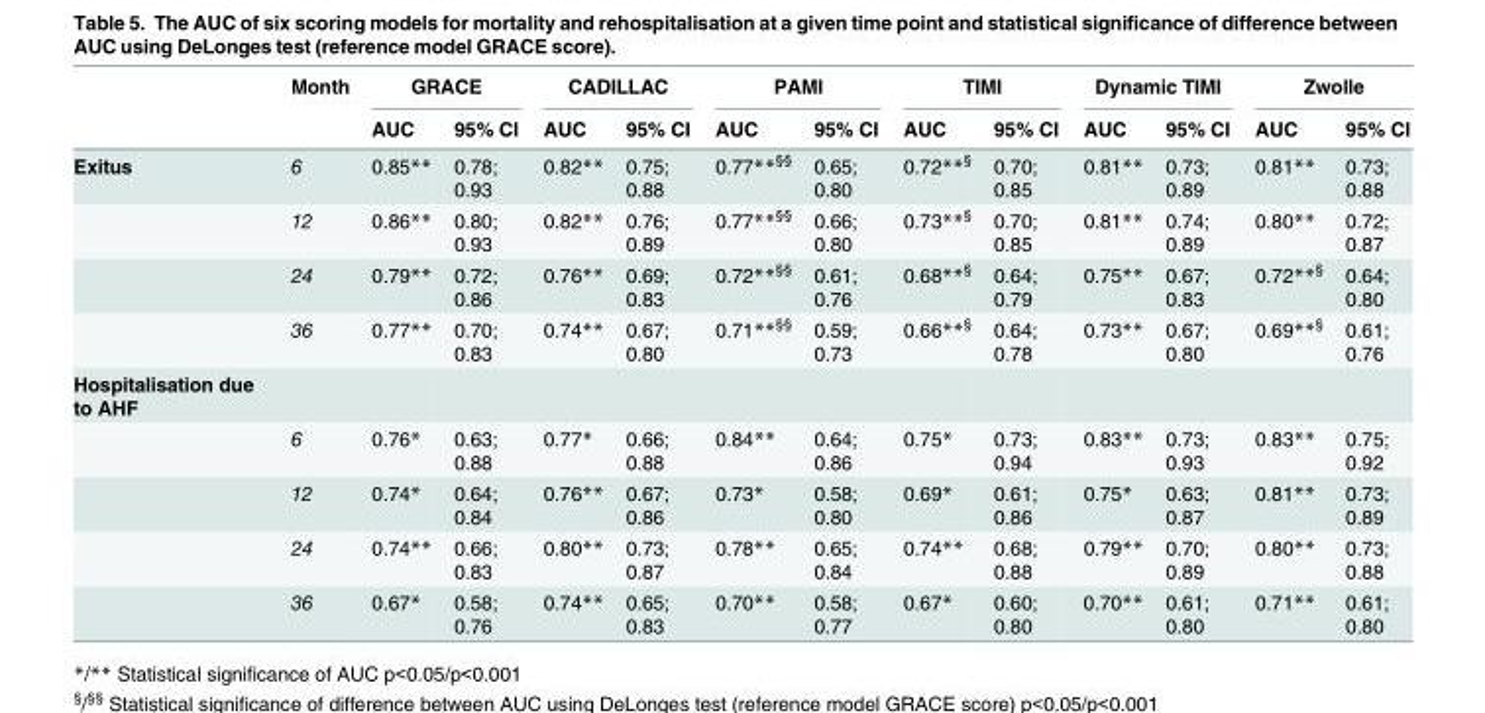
<table><thead><tr><td rowspan="2"></td><td rowspan="2">Month</td><td colspan="2">GRACE</td><td colspan="2">CADILLAC</td><td colspan="2">PAMI</td><td colspan="2">TIMI</td><td colspan="2">Dynamic TIMI</td><td colspan="2">Zwolle</td></tr><tr><td>AUC</td><td>95% CI</td><td>AUC</td><td>95% CI</td><td>AUC</td><td>95% CI</td><td>AUC</td><td>95% CI</td><td>AUC</td><td>95% CI</td><td>AUC</td><td>95% CI</td></tr></thead><tbody><tr><td rowspan="4">Exitus</td><td>6</td><td>0.85**</td><td>0.78; 0.93</td><td>0.82**</td><td>0.75; 0.88</td><td>0.77**<sup>§§</sup></td><td>0.65; 0.80</td><td>0.72**<sup>§</sup></td><td>0.70; 0.85</td><td>0.81**</td><td>0.73; 0.89</td><td>0.81**</td><td>0.73; 0.88</td></tr><tr><td>12</td><td>0.86**</td><td>0.80; 0.93</td><td>0.82**</td><td>0.76; 0.89</td><td>0.77**<sup>§§</sup></td><td>0.66; 0.80</td><td>0.73**<sup>§</sup></td><td>0.70; 0.85</td><td>0.81**</td><td>0.74; 0.89</td><td>0.80**</td><td>0.72; 0.87</td></tr><tr><td>24</td><td>0.79**</td><td>0.72; 0.86</td><td>0.76**</td><td>0.69; 0.83</td><td>0.72**<sup>§§</sup></td><td>0.61; 0.76</td><td>0.68**<sup>§</sup></td><td>0.64; 0.79</td><td>0.75**</td><td>0.67; 0.83</td><td>0.72**<sup>§</sup></td><td>0.64; 0.80</td></tr><tr><td>36</td><td>0.77**</td><td>0.70; 0.83</td><td>0.74**</td><td>0.67; 0.80</td><td>0.71**<sup>§§</sup></td><td>0.59; 0.73</td><td>0.66**<sup>§</sup></td><td>0.64; 0.78</td><td>0.73**</td><td>0.67; 0.80</td><td>0.69**<sup>§</sup></td><td>0.61; 0.76</td></tr><tr><td colspan="14">Hospitalisation due to AHF</td></tr><tr><td></td><td>6</td><td>0.76*</td><td>0.63; 0.88</td><td>0.77*</td><td>0.66; 0.88</td><td>0.84**</td><td>0.64; 0.86</td><td>0.75*</td><td>0.73; 0.94</td><td>0.83**</td><td>0.73; 0.93</td><td>0.83**</td><td>0.75; 0.92</td></tr><tr><td></td><td>12</td><td>0.74*</td><td>0.64; 0.84</td><td>0.76**</td><td>0.67; 0.86</td><td>0.73*</td><td>0.58; 0.80</td><td>0.69*</td><td>0.61; 0.86</td><td>0.75*</td><td>0.63; 0.87</td><td>0.81**</td><td>0.73; 0.89</td></tr><tr><td></td><td>24</td><td>0.74**</td><td>0.66; 0.83</td><td>0.80**</td><td>0.73; 0.87</td><td>0.78**</td><td>0.65; 0.84</td><td>0.74**</td><td>0.68; 0.88</td><td>0.79**</td><td>0.70; 0.89</td><td>0.80**</td><td>0.73; 0.88</td></tr><tr><td></td><td>36</td><td>0.67*</td><td>0.58; 0.76</td><td>0.74**</td><td>0.65; 0.83</td><td>0.70**</td><td>0.58; 0.77</td><td>0.67*</td><td>0.60; 0.80</td><td>0.70**</td><td>0.61; 0.80</td><td>0.71**</td><td>0.61; 0.80</td></tr></tbody></table>